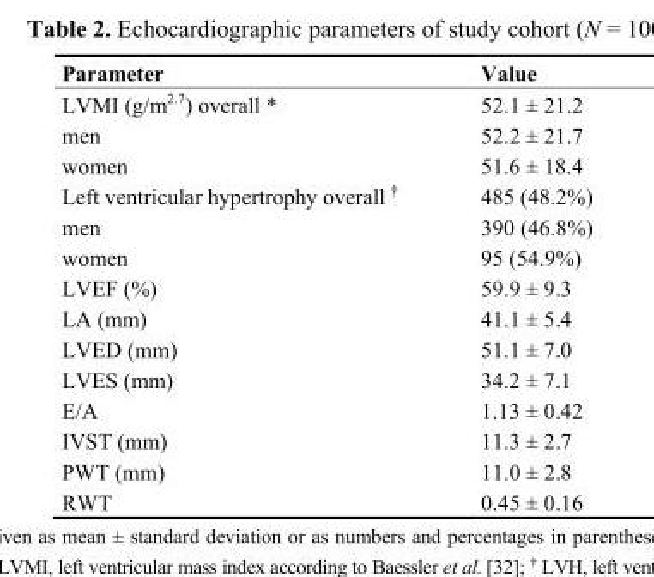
<table><thead><tr><td>Parameter</td><td>Value</td></tr></thead><tbody><tr><td>LVMI (g/m<sup>2.7</sup>) overall *</td><td>52.1 ± 21.2</td></tr><tr><td>men</td><td>52.2 ± 21.7</td></tr><tr><td>women</td><td>51.6 ± 18.4</td></tr><tr><td>Left ventricular hypertrophy overall <sup>†</sup></td><td>485 (48.2%)</td></tr><tr><td>men</td><td>390 (46.8%)</td></tr><tr><td>women</td><td>95 (54.9%)</td></tr><tr><td>LVEF (%)</td><td>59.9 ± 9.3</td></tr><tr><td>LA (mm)</td><td>41.1 ± 5.4</td></tr><tr><td>LVED (mm)</td><td>51.1 ± 7.0</td></tr><tr><td>LVES (mm)</td><td>34.2 ± 7.1</td></tr><tr><td>E/A</td><td>1.13 ± 0.42</td></tr><tr><td>IVST (mm)</td><td>11.3 ± 2.7</td></tr><tr><td>PWT (mm)</td><td>11.0 ± 2.8</td></tr><tr><td>RWT</td><td>0.45 ± 0.16</td></tr></tbody></table>